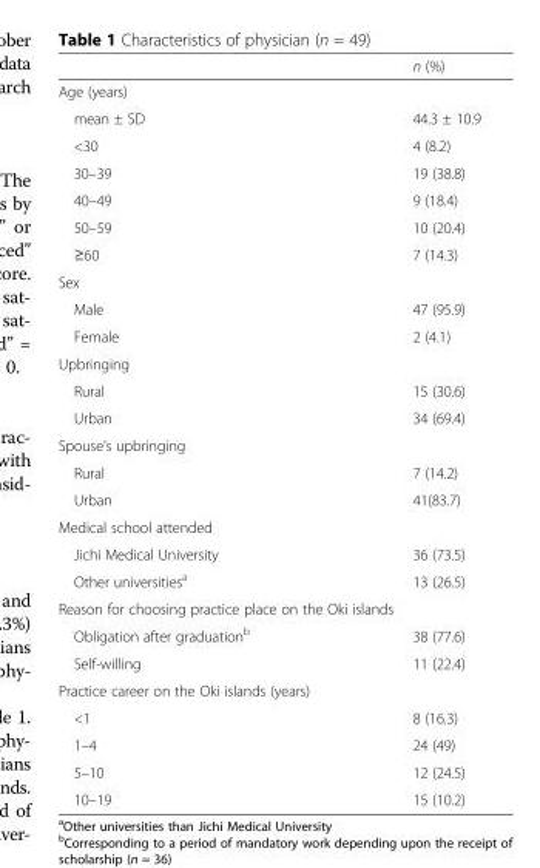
<table><thead><tr><td></td><td>n (%)</td></tr></thead><tbody><tr><td colspan="2">Age (years)</td></tr><tr><td>mean ± SD</td><td>44.3 ± 10.9</td></tr><tr><td>&lt;30</td><td>4 (8.2)</td></tr><tr><td>30–39</td><td>19 (38.8)</td></tr><tr><td>40–49</td><td>9 (18.4)</td></tr><tr><td>50–59</td><td>10 (20.4)</td></tr><tr><td>≥60</td><td>7 (14.3)</td></tr><tr><td colspan="2">Sex</td></tr><tr><td>Male</td><td>47 (95.9)</td></tr><tr><td>Female</td><td>2 (4.1)</td></tr><tr><td colspan="2">Upbringing</td></tr><tr><td>Rural</td><td>15 (30.6)</td></tr><tr><td>Urban</td><td>34 (69.4)</td></tr><tr><td colspan="2">Spouse’s upbringing</td></tr><tr><td>Rural</td><td>7 (14.2)</td></tr><tr><td>Urban</td><td>41(83.7)</td></tr><tr><td colspan="2">Medical school attended</td></tr><tr><td>Jichi Medical University</td><td>36 (73.5)</td></tr><tr><td>Other universities<sup>a</sup></td><td>13 (26.5)</td></tr><tr><td colspan="2">Reason for choosing practice place on the Oki islands</td></tr><tr><td>Obligation after graduation<sup>b</sup></td><td>38 (77.6)</td></tr><tr><td>Self-willing</td><td>11 (22.4)</td></tr><tr><td colspan="2">Practice career on the Oki islands (years)</td></tr><tr><td>&lt;1</td><td>8 (16.3)</td></tr><tr><td>1–4</td><td>24 (49)</td></tr><tr><td>5–10</td><td>12 (24.5)</td></tr><tr><td>10–19</td><td>15 (10.2)</td></tr></tbody></table>